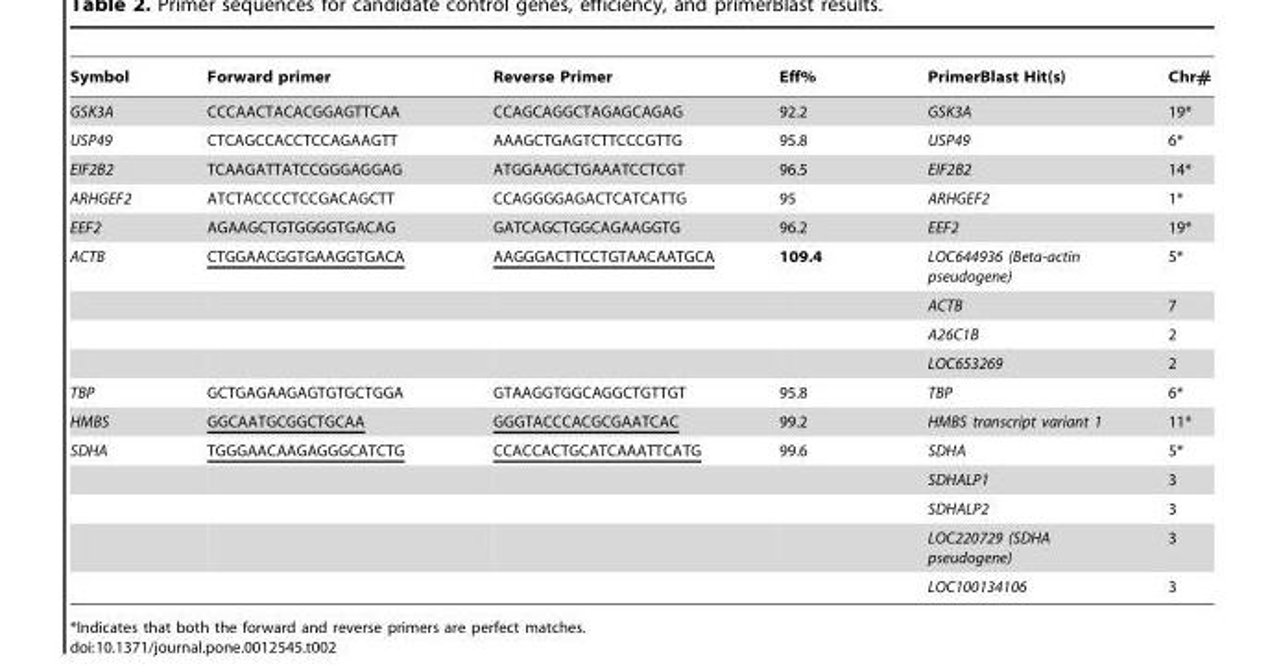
<table><thead><tr><td>Symbol</td><td>Forward primer</td><td>Reverse Primer</td><td>Eff%</td><td>PrimerBlast Hit(s)</td><td>Chr#</td></tr></thead><tbody><tr><td>GSK3A</td><td>CCCAACTACACGGAGTTCAA</td><td>CCAGCAGGCTAGAGCAGAG</td><td>92.2</td><td>GSK3A</td><td>19*</td></tr><tr><td>USP49</td><td>CTCAGCCACCTCCAGAAGTT</td><td>AAAGCTGAGTCTTCCCGTTG</td><td>95.8</td><td>USP49</td><td>6*</td></tr><tr><td>EIF2B2</td><td>TCAAGATTATCCGGGAGGAG</td><td>ATGGAAGCTGAAATCCTCGT</td><td>96.5</td><td>EIF2B2</td><td>14*</td></tr><tr><td>ARHGEF2</td><td>ATCTACCCCTCCGACAGCTT</td><td>CCAGGGGAGACTCATCATTG</td><td>95</td><td>ARHGEF2</td><td>1*</td></tr><tr><td>EEF2</td><td>AGAAGCTGTGGGGTGACAG</td><td>GATCAGCTGGCAGAAGGTG</td><td>96.2</td><td>EEF2</td><td>19*</td></tr><tr><td rowspan="4">ACTB</td><td>CTGGAACGGTGAAGGTGACA</td><td>AAGGGACTTCCTGTAACAATGCA</td><td>109.4</td><td>LOC644936 (Beta-actin pseudogene)</td><td>5*</td></tr><tr><td></td><td></td><td></td><td>ACTB</td><td>7</td></tr><tr><td></td><td></td><td></td><td>A26C1B</td><td>2</td></tr><tr><td></td><td></td><td></td><td>LOC653269</td><td>2</td></tr><tr><td>TBP</td><td>GCTGAGAAGAGTGTGCTGGA</td><td>GTAAGGTGGCAGGCTGTTGT</td><td>95.8</td><td>TBP</td><td>6*</td></tr><tr><td>HMBS</td><td>GGCAATGCGGCTGCAA</td><td>GGGTACCCACGCGAATCAC</td><td>99.2</td><td>HMBS transcript variant 1</td><td>11*</td></tr><tr><td rowspan="5">SDHA</td><td>TGGGAACAAGAGGGCATCTG</td><td>CCACCACTGCATCAAATTCATG</td><td>99.6</td><td>SDHA</td><td>5*</td></tr><tr><td></td><td></td><td></td><td>SDHALP1</td><td>3</td></tr><tr><td></td><td></td><td></td><td>SDHALP2</td><td>3</td></tr><tr><td></td><td></td><td></td><td>LOC220729 (SDHA pseudogene)</td><td>3</td></tr><tr><td></td><td></td><td></td><td>LOC100134106</td><td>3</td></tr></tbody></table>